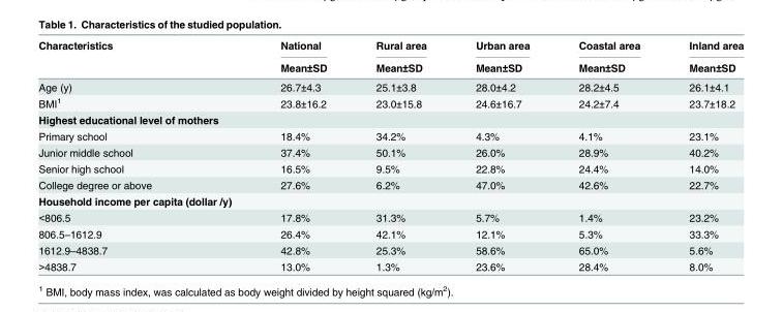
<table><thead><tr><td rowspan="2">Characteristics</td><td rowspan="2">National Mean±SD</td><td rowspan="2">Rural area Mean±SD</td><td rowspan="2">Urban area Mean±SD</td><td rowspan="2">Coastal area Mean±SD</td><td rowspan="2">Inland area Mean±SD</td></tr><tr></tr></thead><tbody><tr><td>Age (y)</td><td>26.7±4.3</td><td>25.1±3.8</td><td>28.0±4.2</td><td>28.2±4.5</td><td>26.1±4.1</td></tr><tr><td>BMI<sup>1</sup></td><td>23.8±16.2</td><td>23.0±15.8</td><td>24.6±16.7</td><td>24.2±7.4</td><td>23.7±18.2</td></tr><tr><td colspan="6">Highest educational level of mothers</td></tr><tr><td>Primary school</td><td>18.4%</td><td>34.2%</td><td>4.3%</td><td>4.1%</td><td>23.1%</td></tr><tr><td>Junior middle school</td><td>37.4%</td><td>50.1%</td><td>26.0%</td><td>28.9%</td><td>40.2%</td></tr><tr><td>Senior high school</td><td>16.5%</td><td>9.5%</td><td>22.8%</td><td>24.4%</td><td>14.0%</td></tr><tr><td>College degree or above</td><td>27.6%</td><td>6.2%</td><td>47.0%</td><td>42.6%</td><td>22.7%</td></tr><tr><td colspan="6">Household income per capita (dollar /y)</td></tr><tr><td>&lt;806.5</td><td>17.8%</td><td>31.3%</td><td>5.7%</td><td>1.4%</td><td>23.2%</td></tr><tr><td>806.5–1612.9</td><td>26.4%</td><td>42.1%</td><td>12.1%</td><td>5.3%</td><td>33.3%</td></tr><tr><td>1612.9–4838.7</td><td>42.8%</td><td>25.3%</td><td>58.6%</td><td>65.0%</td><td>5.6%</td></tr><tr><td>&gt;4838.7</td><td>13.0%</td><td>1.3%</td><td>23.6%</td><td>28.4%</td><td>8.0%</td></tr></tbody></table>